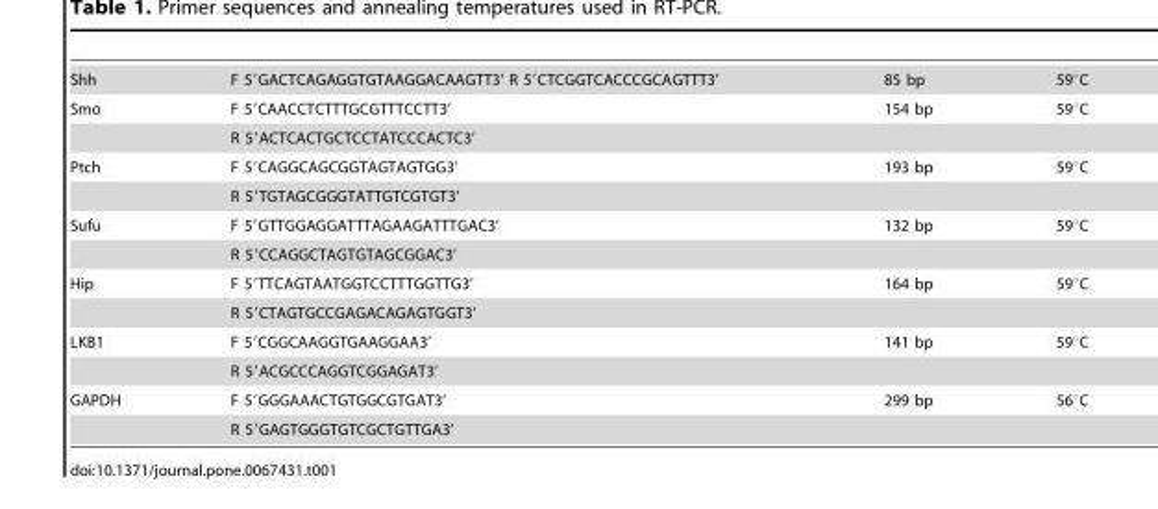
<table><tbody><tr><td>Shh</td><td>F 5′GACTCAGAGGTGTAAGGACAAGTT3’ R 5′CTCGGTCACCCGCAGTTT3’</td><td>85 bp</td><td>59°C</td></tr><tr><td rowspan="2">Smo</td><td>F 5′CAACCTCTTTGCGTTTCCTT3’</td><td>154 bp</td><td>59°C</td></tr><tr><td>R 5′ACTCACTGCTCCTATCCCACTC3’</td><td></td><td></td></tr><tr><td rowspan="2">Ptch</td><td>F 5′CAGGCAGCGGTAGTAGTGG3’</td><td>193 bp</td><td>59°C</td></tr><tr><td>R 5′TGTAGCGGGTATTGTCGTGT3’</td><td></td><td></td></tr><tr><td rowspan="2">Sufu</td><td>F 5′GTTGGAGGATTTAGAAGATTTGAC3’</td><td>132 bp</td><td>59°C</td></tr><tr><td>R 5′CCAGGCTAGTGTAGCGGAC3’</td><td></td><td></td></tr><tr><td rowspan="2">Hip</td><td>F 5′TTCAGTAATGGTCCTTTGGTTG3’</td><td>164 bp</td><td>59°C</td></tr><tr><td>R 5′CTAGTGCCGAGACAGAGTGGT3’</td><td></td><td></td></tr><tr><td rowspan="2">LKB1</td><td>F 5′CGGCAAGGTGAAGGAA3’</td><td>141 bp</td><td>59°C</td></tr><tr><td>R 5′ACGCCCAGGTCGGAGAT3’</td><td></td><td></td></tr><tr><td rowspan="2">GAPDH</td><td>F 5′GGGAAACTGTGGCGTGAT3’</td><td>299 bp</td><td>56°C</td></tr><tr><td>R 5′GAGTGGGTGTCGCTGTTGA3’</td><td></td><td></td></tr></tbody></table>